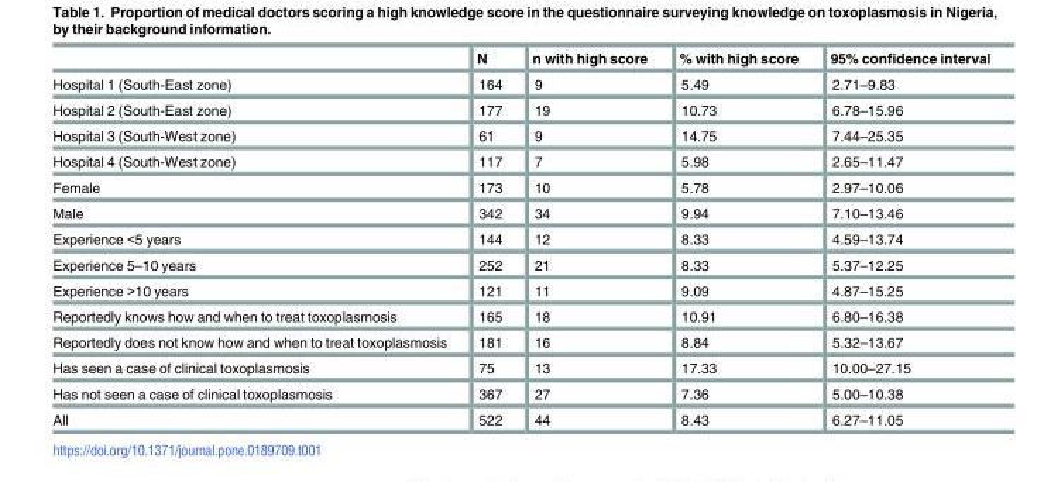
<table><thead><tr><td></td><td>N</td><td>n with high score</td><td>% with high score</td><td>95% confidence interval</td></tr></thead><tbody><tr><td>Hospital 1 (South-East zone)</td><td>164</td><td>9</td><td>5.49</td><td>2.71–9.83</td></tr><tr><td>Hospital 2 (South-East zone)</td><td>177</td><td>19</td><td>10.73</td><td>6.78–15.96</td></tr><tr><td>Hospital 3 (South-West zone)</td><td>61</td><td>9</td><td>14.75</td><td>7.44–25.35</td></tr><tr><td>Hospital 4 (South-West zone)</td><td>117</td><td>7</td><td>5.98</td><td>2.65–11.47</td></tr><tr><td>Female</td><td>173</td><td>10</td><td>5.78</td><td>2.97–10.06</td></tr><tr><td>Male</td><td>342</td><td>34</td><td>9.94</td><td>7.10–13.46</td></tr><tr><td>Experience &lt;5 years</td><td>144</td><td>12</td><td>8.33</td><td>4.59–13.74</td></tr><tr><td>Experience 5–10 years</td><td>252</td><td>21</td><td>8.33</td><td>5.37–12.25</td></tr><tr><td>Experience &gt;10 years</td><td>121</td><td>11</td><td>9.09</td><td>4.87–15.25</td></tr><tr><td>Reportedly knows how and when to treat toxoplasmosis</td><td>165</td><td>18</td><td>10.91</td><td>6.80–16.38</td></tr><tr><td>Reportedly does not know how and when to treat toxoplasmosis</td><td>181</td><td>16</td><td>8.84</td><td>5.32–13.67</td></tr><tr><td>Has seen a case of clinical toxoplasmosis</td><td>75</td><td>13</td><td>17.33</td><td>10.00–27.15</td></tr><tr><td>Has not seen a case of clinical toxoplasmosis</td><td>367</td><td>27</td><td>7.36</td><td>5.00–10.38</td></tr><tr><td>All</td><td>522</td><td>44</td><td>8.43</td><td>6.27–11.05</td></tr></tbody></table>